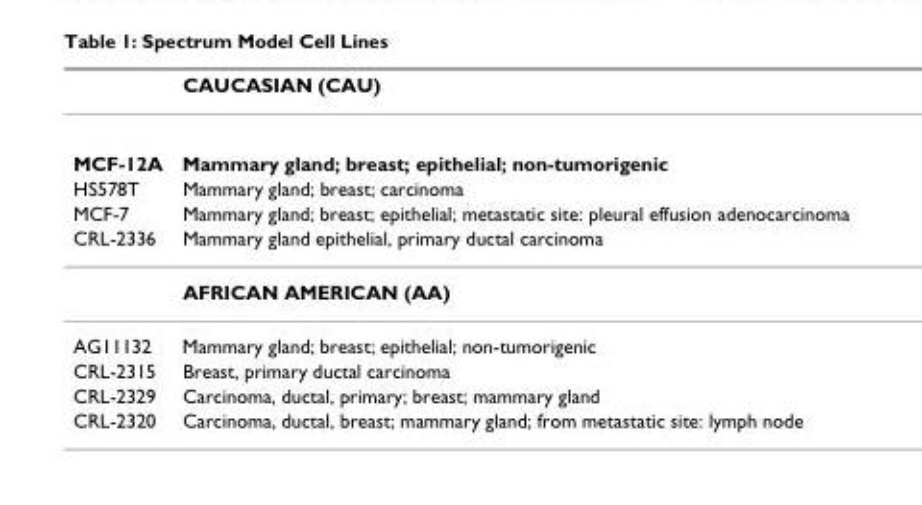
<table><thead><tr><td></td><td>CAUCASIAN (CAU)</td></tr></thead><tbody><tr><td>MCF-12A</td><td>Mammary gland; breast; epithelial; non-tumorigenic</td></tr><tr><td>HS578T</td><td>Mammary gland; breast; carcinoma</td></tr><tr><td>MCF-7</td><td>Mammary gland; breast; epithelial; metastatic site: pleural effusion adenocarcinoma</td></tr><tr><td rowspan="2">CRL-2336</td><td>Mammary gland epithelial, primary ductal carcinoma</td></tr><tr><td>AFRICAN AMERICAN (AA)</td></tr><tr><td>AG11132</td><td>Mammary gland; breast; epithelial; non-tumorigenic</td></tr><tr><td>CRL-2315</td><td>Breast, primary ductal carcinoma</td></tr><tr><td>CRL-2329</td><td>Carcinoma, ductal, primary; breast; mammary gland</td></tr><tr><td>CRL-2320</td><td>Carcinoma, ductal, breast; mammary gland; from metastatic site: lymph node</td></tr></tbody></table>